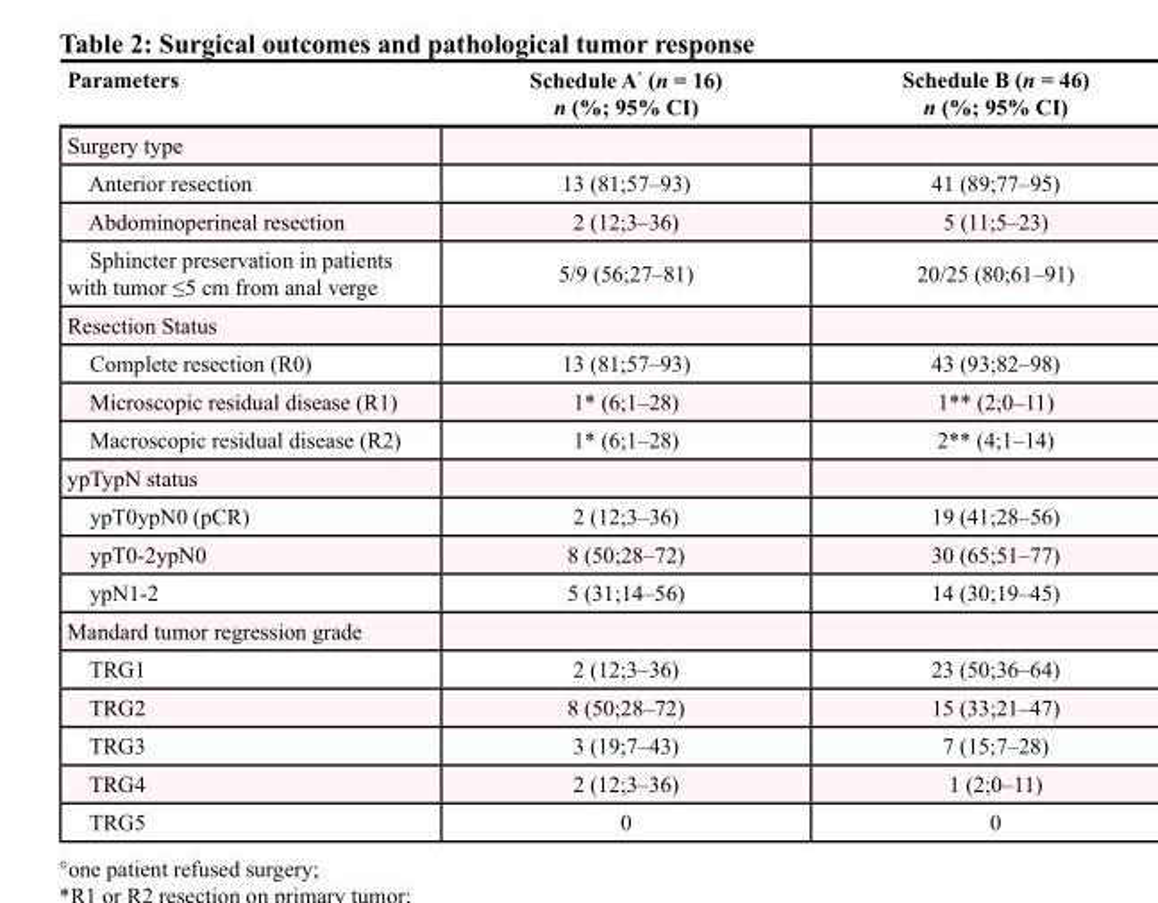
<table><thead><tr><td>Parameters</td><td>Schedule A<sup>°</sup> (n = 16) n (%; 95% CI)</td><td>Schedule B (n = 46) n (%; 95% CI)</td></tr></thead><tbody><tr><td colspan="3">Surgery type</td></tr><tr><td>Anterior resection</td><td>13 (81;57–93)</td><td>41 (89;77–95)</td></tr><tr><td>Abdominoperineal resection</td><td>2 (12;3–36)</td><td>5 (11;5–23)</td></tr><tr><td>Sphincter preservation in patients with tumor ≤5 cm from anal verge</td><td>5/9 (56;27–81)</td><td>20/25 (80;61–91)</td></tr><tr><td colspan="3">Resection Status</td></tr><tr><td>Complete resection (R0)</td><td>13 (81;57–93)</td><td>43 (93;82–98)</td></tr><tr><td>Microscopic residual disease (R1)</td><td>1* (6;1–28)</td><td>1** (2;0–11)</td></tr><tr><td>Macroscopic residual disease (R2)</td><td>1* (6;1–28)</td><td>2** (4;1–14)</td></tr><tr><td colspan="3">ypTypN status</td></tr><tr><td>ypT0ypN0 (pCR)</td><td>2 (12;3–36)</td><td>19 (41;28–56)</td></tr><tr><td>ypT0-2ypN0</td><td>8 (50;28–72)</td><td>30 (65;51–77)</td></tr><tr><td>ypN1-2</td><td>5 (31;14–56)</td><td>14 (30;19–45)</td></tr><tr><td colspan="3">Mandard tumor regression grade</td></tr><tr><td>TRG1</td><td>2 (12;3–36)</td><td>23 (50;36–64)</td></tr><tr><td>TRG2</td><td>8 (50;28–72)</td><td>15 (33;21–47)</td></tr><tr><td>TRG3</td><td>3 (19;7–43)</td><td>7 (15;7–28)</td></tr><tr><td>TRG4</td><td>2 (12;3–36)</td><td>1 (2;0–11)</td></tr><tr><td>TRG5</td><td>0</td><td>0</td></tr></tbody></table>